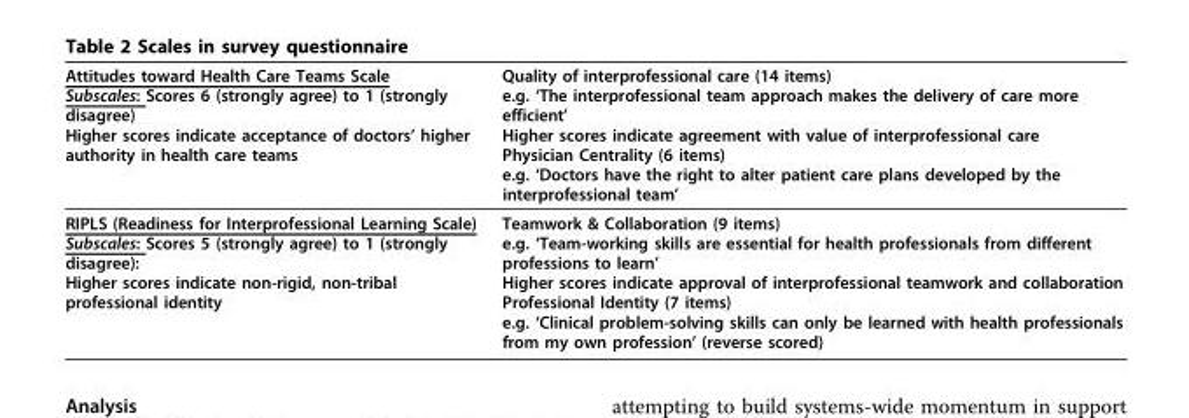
<table><thead><tr><td>Attitudes toward Health Care Teams Scale Subscales: Scores 6 (strongly agree) to 1 (strongly disagree) Higher scores indicate acceptance of doctors’ higher authority in health care teams</td><td>Quality of interprofessional care (14 items) e.g. ‘The interprofessional team approach makes the delivery of care more efficient’ Higher scores indicate agreement with value of interprofessional care Physician Centrality (6 items) e.g. ‘Doctors have the right to alter patient care plans developed by the interprofessional team’</td></tr></thead><tbody><tr><td>RIPLS (Readiness for Interprofessional Learning Scale) Subscales: Scores 5 (strongly agree) to 1 (strongly disagree): Higher scores indicate non-rigid, non-tribal professional identity</td><td>Teamwork &amp; Collaboration (9 items) e.g. ‘Team-working skills are essential for health professionals from different professions to learn’ Higher scores indicate approval of interprofessional teamwork and collaboration Professional Identity (7 items) e.g. ‘Clinical problem-solving skills can only be learned with health professionals from my own profession’ (reverse scored)</td></tr></tbody></table>